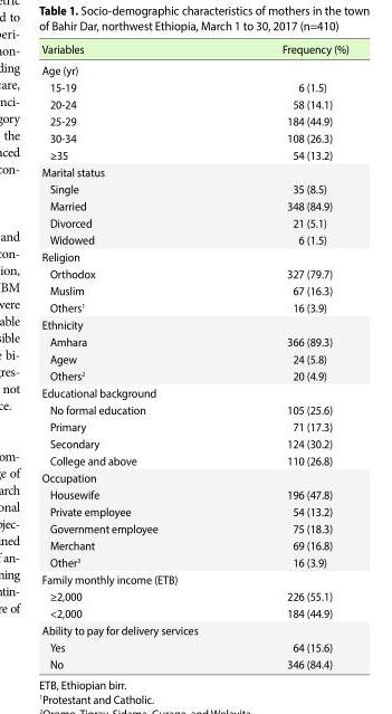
<table><thead><tr><td>Variables</td><td>Frequency (%)</td></tr></thead><tbody><tr><td colspan="2">Age (yr)</td></tr><tr><td>15-19</td><td>6 (1.5)</td></tr><tr><td>20-24</td><td>58 (14.1)</td></tr><tr><td>25-29</td><td>184 (44.9)</td></tr><tr><td>30-34</td><td>108 (26.3)</td></tr><tr><td>≥35</td><td>54 (13.2)</td></tr><tr><td colspan="2">Marital status</td></tr><tr><td>Single</td><td>35 (8.5)</td></tr><tr><td>Married</td><td>348 (84.9)</td></tr><tr><td>Divorced</td><td>21 (5.1)</td></tr><tr><td>Widowed</td><td>6 (1.5)</td></tr><tr><td colspan="2">Religion</td></tr><tr><td>Orthodox</td><td>327 (79.7)</td></tr><tr><td>Muslim</td><td>67 (16.3)</td></tr><tr><td>Others<sup>1</sup></td><td>16 (3.9)</td></tr><tr><td colspan="2">Ethnicity</td></tr><tr><td>Amhara</td><td>366 (89.3)</td></tr><tr><td>Agew</td><td>24 (5.8)</td></tr><tr><td>Others<sup>2</sup></td><td>20 (4.9)</td></tr><tr><td colspan="2">Educational background</td></tr><tr><td>No formal education</td><td>105 (25.6)</td></tr><tr><td>Primary</td><td>71 (17.3)</td></tr><tr><td>Secondary</td><td>124 (30.2)</td></tr><tr><td>College and above</td><td>110 (26.8)</td></tr><tr><td colspan="2">Occupation</td></tr><tr><td>Housewife</td><td>196 (47.8)</td></tr><tr><td>Private employee</td><td>54 (13.2)</td></tr><tr><td>Government employee</td><td>75 (18.3)</td></tr><tr><td>Merchant</td><td>69 (16.8)</td></tr><tr><td>Other<sup>3</sup></td><td>16 (3.9)</td></tr><tr><td colspan="2">Family monthly income (ETB)</td></tr><tr><td>≥2,000</td><td>226 (55.1)</td></tr><tr><td>&lt;2,000</td><td>184 (44.9)</td></tr><tr><td colspan="2">Ability to pay for delivery services</td></tr><tr><td>Yes</td><td>64 (15.6)</td></tr><tr><td>No</td><td>346 (84.4)</td></tr></tbody></table>